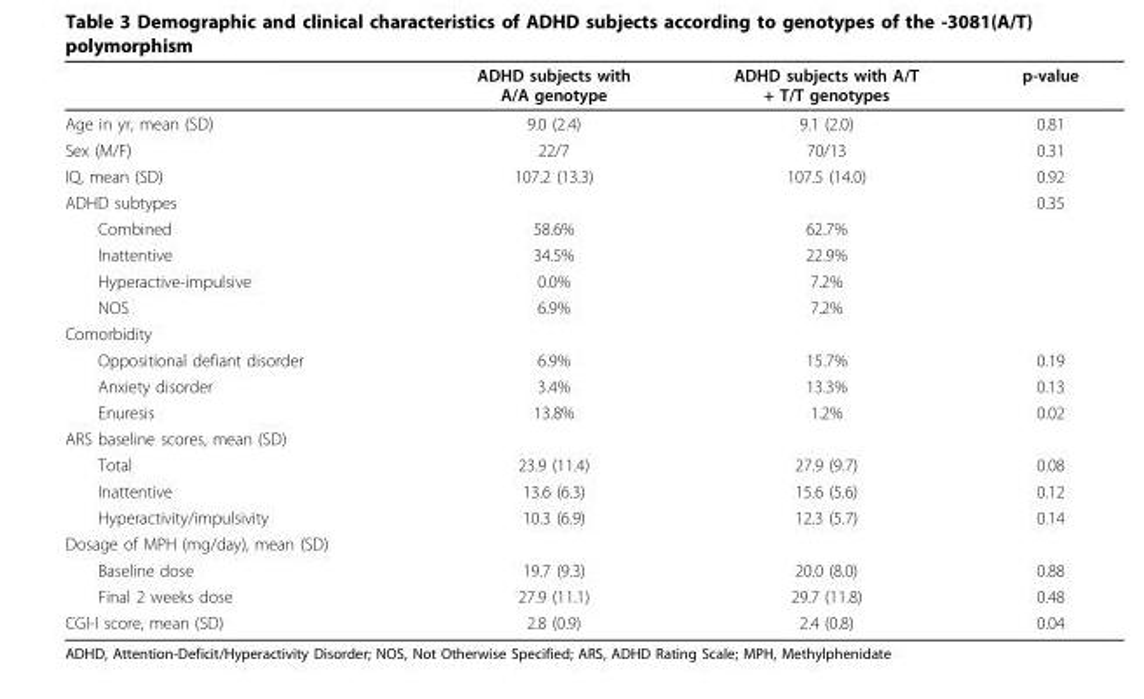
<table><thead><tr><td></td><td>ADHD subjects with A/A genotype</td><td>ADHD subjects with A/T + T/T genotypes</td><td>p-value</td></tr></thead><tbody><tr><td>Age in yr, mean (SD)</td><td>9.0 (2.4)</td><td>9.1 (2.0)</td><td>0.81</td></tr><tr><td>Sex (M/F)</td><td>22/7</td><td>70/13</td><td>0.31</td></tr><tr><td>IQ, mean (SD)</td><td>107.2 (13.3)</td><td>107.5 (14.0)</td><td>0.92</td></tr><tr><td>ADHD subtypes</td><td></td><td></td><td>0.35</td></tr><tr><td>Combined</td><td>58.6%</td><td>62.7%</td><td></td></tr><tr><td>Inattentive</td><td>34.5%</td><td>22.9%</td><td></td></tr><tr><td>Hyperactive-impulsive</td><td>0.0%</td><td>7.2%</td><td></td></tr><tr><td>NOS</td><td>6.9%</td><td>7.2%</td><td></td></tr><tr><td colspan="4">Comorbidity</td></tr><tr><td>Oppositional defiant disorder</td><td>6.9%</td><td>15.7%</td><td>0.19</td></tr><tr><td>Anxiety disorder</td><td>3.4%</td><td>13.3%</td><td>0.13</td></tr><tr><td>Enuresis</td><td>13.8%</td><td>1.2%</td><td>0.02</td></tr><tr><td colspan="4">ARS baseline scores, mean (SD)</td></tr><tr><td>Total</td><td>23.9 (11.4)</td><td>27.9 (9.7)</td><td>0.08</td></tr><tr><td>Inattentive</td><td>13.6 (6.3)</td><td>15.6 (5.6)</td><td>0.12</td></tr><tr><td>Hyperactivity/impulsivity</td><td>10.3 (6.9)</td><td>12.3 (5.7)</td><td>0.14</td></tr><tr><td colspan="4">Dosage of MPH (mg/day), mean (SD)</td></tr><tr><td>Baseline dose</td><td>19.7 (9.3)</td><td>20.0 (8.0)</td><td>0.88</td></tr><tr><td>Final 2 weeks dose</td><td>27.9 (11.1)</td><td>29.7 (11.8)</td><td>0.48</td></tr><tr><td>CGI-I score, mean (SD)</td><td>2.8 (0.9)</td><td>2.4 (0.8)</td><td>0.04</td></tr></tbody></table>